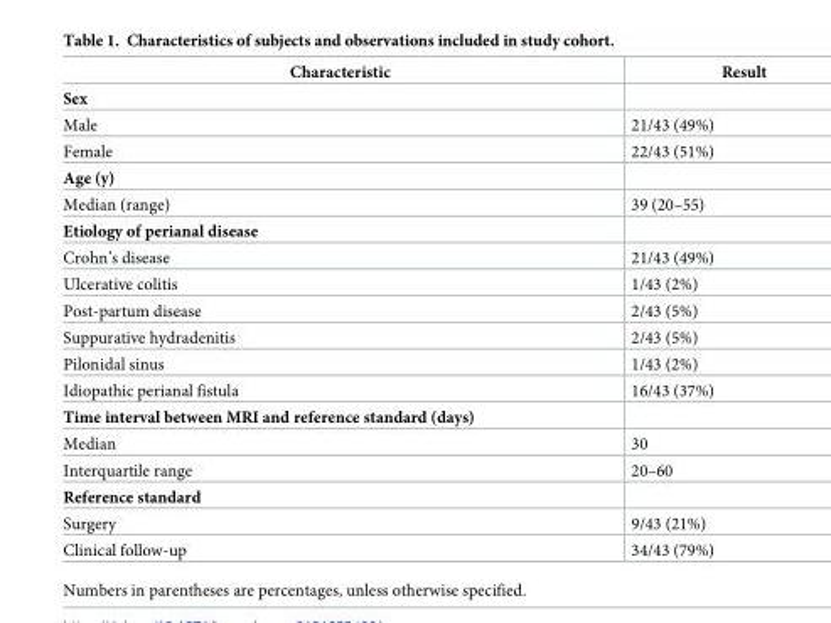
<table><thead><tr><td>Characteristic</td><td>Result</td></tr></thead><tbody><tr><td colspan="2">Sex</td></tr><tr><td>Male</td><td>21/43 (49%)</td></tr><tr><td>Female</td><td>22/43 (51%)</td></tr><tr><td colspan="2">Age (y)</td></tr><tr><td>Median (range)</td><td>39 (20–55)</td></tr><tr><td colspan="2">Etiology of perianal disease</td></tr><tr><td>Crohn’s disease</td><td>21/43 (49%)</td></tr><tr><td>Ulcerative colitis</td><td>1/43 (2%)</td></tr><tr><td>Post-partum disease</td><td>2/43 (5%)</td></tr><tr><td>Suppurative hydradenitis</td><td>2/43 (5%)</td></tr><tr><td>Pilonidal sinus</td><td>1/43 (2%)</td></tr><tr><td>Idiopathic perianal fistula</td><td>16/43 (37%)</td></tr><tr><td colspan="2">Time interval between MRI and reference standard (days)</td></tr><tr><td>Median</td><td>30</td></tr><tr><td>Interquartile range</td><td>20–60</td></tr><tr><td colspan="2">Reference standard</td></tr><tr><td>Surgery</td><td>9/43 (21%)</td></tr><tr><td>Clinical follow-up</td><td>34/43 (79%)</td></tr></tbody></table>